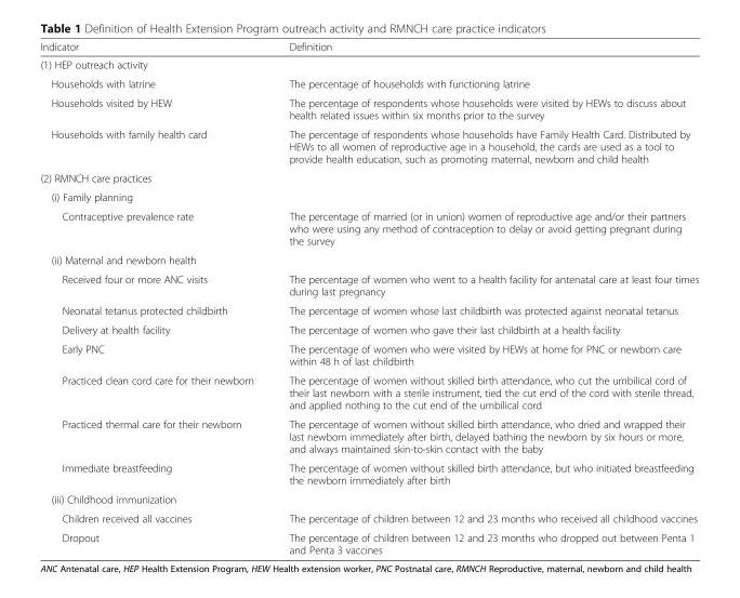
<table><thead><tr><td>Indicator</td><td>Definition</td></tr></thead><tbody><tr><td colspan="2">(1) HEP outreach activity</td></tr><tr><td>Households with latrine</td><td>The percentage of households with functioning latrine</td></tr><tr><td>Households visited by HEW</td><td>The percentage of respondents whose households were visited by HEWs to discuss about health related issues within six months prior to the survey</td></tr><tr><td>Households with family health card</td><td>The percentage of respondents whose households have Family Health Card. Distributed by HEWs to all women of reproductive age in a household, the cards are used as a tool to provide health education, such as promoting maternal, newborn and child health</td></tr><tr><td colspan="2">(2) RMNCH care practices</td></tr><tr><td colspan="2">(i) Family planning</td></tr><tr><td>Contraceptive prevalence rate</td><td>The percentage of married (or in union) women of reproductive age and/or their partners who were using any method of contraception to delay or avoid getting pregnant during the survey</td></tr><tr><td colspan="2">(ii) Maternal and newborn health</td></tr><tr><td>Received four or more ANC visits</td><td>The percentage of women who went to a health facility for antenatal care at least four times during last pregnancy</td></tr><tr><td>Neonatal tetanus protected childbirth</td><td>The percentage of women whose last childbirth was protected against neonatal tetanus</td></tr><tr><td>Delivery at health facility</td><td>The percentage of women who gave their last childbirth at a health facility</td></tr><tr><td>Early PNC</td><td>The percentage of women who were visited by HEWs at home for PNC or newborn care within 48 h of last childbirth</td></tr><tr><td>Practiced clean cord care for their newborn</td><td>The percentage of women without skilled birth attendance, who cut the umbilical cord of their last newborn with a sterile instrument, tied the cut end of the cord with sterile thread, and applied nothing to the cut end of the umbilical cord</td></tr><tr><td>Practiced thermal care for their newborn</td><td>The percentage of women without skilled birth attendance, who dried and wrapped their last newborn immediately after birth, delayed bathing the newborn by six hours or more, and always maintained skin-to-skin contact with the baby</td></tr><tr><td>Immediate breastfeeding</td><td>The percentage of women without skilled birth attendance, but who initiated breastfeeding the newborn immediately after birth</td></tr><tr><td colspan="2">(iii) Childhood immunization</td></tr><tr><td>Children received all vaccines</td><td>The percentage of children between 12 and 23 months who received all childhood vaccines</td></tr><tr><td>Dropout</td><td>The percentage of children between 12 and 23 months who dropped out between Penta 1 and Penta 3 vaccines</td></tr></tbody></table>